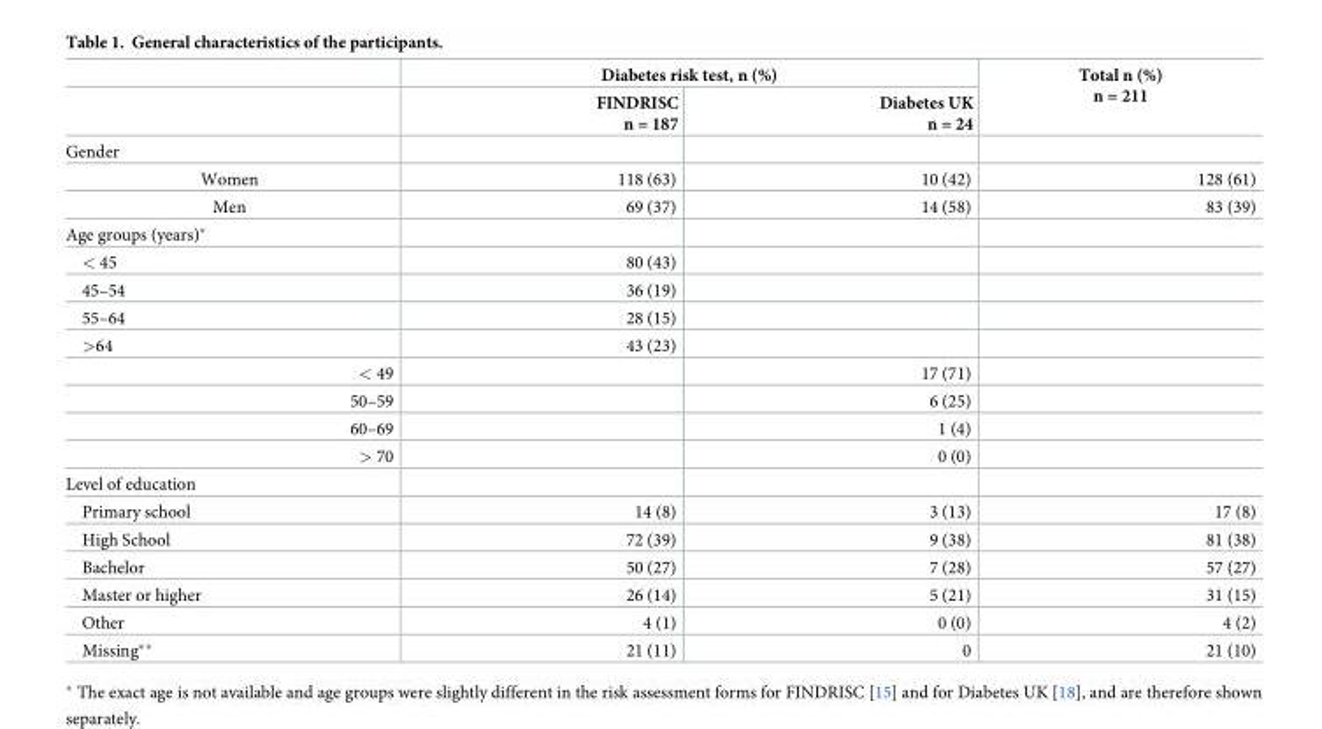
<table><thead><tr><td rowspan="2"></td><td colspan="2">Diabetes risk test, n (%)</td><td rowspan="2">Total n (%) n = 211</td></tr><tr><td>FINDRISC n = 187</td><td>Diabetes UK n = 24</td></tr></thead><tbody><tr><td colspan="4">Gender</td></tr><tr><td>Women</td><td>118 (63)</td><td>10 (42)</td><td>128 (61)</td></tr><tr><td>Men</td><td>69 (37)</td><td>14 (58)</td><td>83 (39)</td></tr><tr><td colspan="4">Age groups (years)*</td></tr><tr><td>&lt; 45</td><td>80 (43)</td><td></td><td></td></tr><tr><td>45–54</td><td>36 (19)</td><td></td><td></td></tr><tr><td>55–64</td><td>28 (15)</td><td></td><td></td></tr><tr><td>&gt;64</td><td>43 (23)</td><td></td><td></td></tr><tr><td>&lt; 49</td><td></td><td>17 (71)</td><td></td></tr><tr><td>50–59</td><td></td><td>6 (25)</td><td></td></tr><tr><td>60–69</td><td></td><td>1 (4)</td><td></td></tr><tr><td>&gt; 70</td><td></td><td>0 (0)</td><td></td></tr><tr><td colspan="4">Level of education</td></tr><tr><td>Primary school</td><td>14 (8)</td><td>3 (13)</td><td>17 (8)</td></tr><tr><td>High School</td><td>72 (39)</td><td>9 (38)</td><td>81 (38)</td></tr><tr><td>Bachelor</td><td>50 (27)</td><td>7 (28)</td><td>57 (27)</td></tr><tr><td>Master or higher</td><td>26 (14)</td><td>5 (21)</td><td>31 (15)</td></tr><tr><td>Other</td><td>4 (1)</td><td>0 (0)</td><td>4 (2)</td></tr><tr><td>Missing**</td><td>21 (11)</td><td>0</td><td>21 (10)</td></tr></tbody></table>